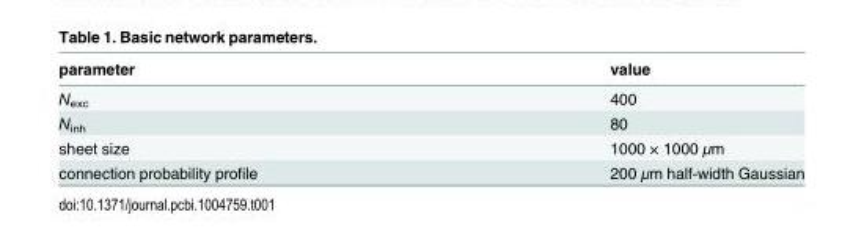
<table><thead><tr><td>parameter</td><td>value</td></tr></thead><tbody><tr><td>N<sub>exc</sub></td><td>400</td></tr><tr><td>N<sub>inh</sub></td><td>80</td></tr><tr><td>sheet size</td><td>1000 × 1000 μm</td></tr><tr><td>connection probability profile</td><td>200 μm half-width Gaussian</td></tr></tbody></table>